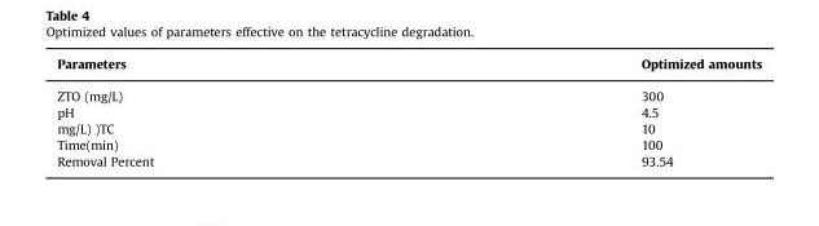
<table><thead><tr><td>Parameters</td><td>Optimized amounts</td></tr></thead><tbody><tr><td>ZTO (mg/L)</td><td>300</td></tr><tr><td>pH</td><td>4.5</td></tr><tr><td>mg/L) )TC</td><td>10</td></tr><tr><td>Time(min)</td><td>100</td></tr><tr><td>Removal Percent</td><td>93.54</td></tr></tbody></table>